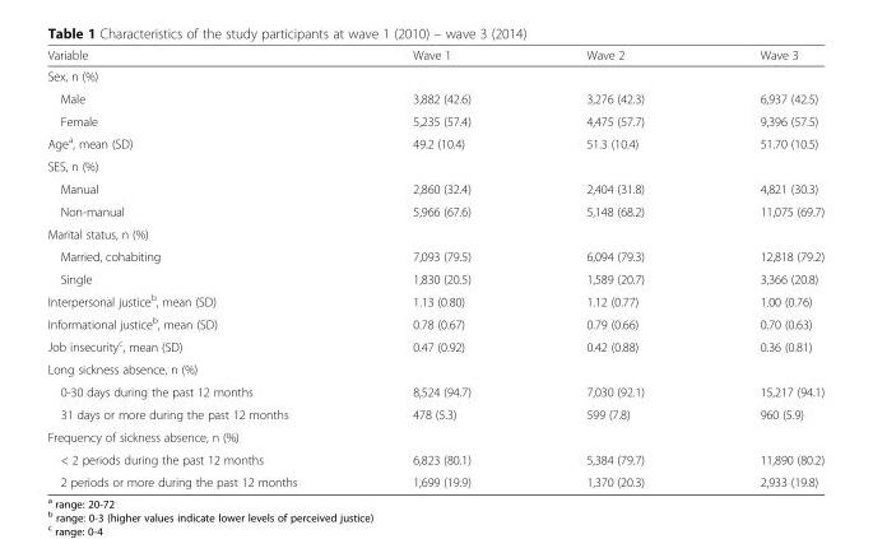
<table><thead><tr><td>Variable</td><td>Wave 1</td><td>Wave 2</td><td>Wave 3</td></tr></thead><tbody><tr><td colspan="4">Sex, n (%)</td></tr><tr><td>Male</td><td>3,882 (42.6)</td><td>3,276 (42.3)</td><td>6,937 (42.5)</td></tr><tr><td>Female</td><td>5,235 (57.4)</td><td>4,475 (57.7)</td><td>9,396 (57.5)</td></tr><tr><td>Age<sup>a</sup>, mean (SD)</td><td>49.2 (10.4)</td><td>51.3 (10.4)</td><td>51.70 (10.5)</td></tr><tr><td colspan="4">SES, n (%)</td></tr><tr><td>Manual</td><td>2,860 (32.4)</td><td>2,404 (31.8)</td><td>4,821 (30.3)</td></tr><tr><td>Non-manual</td><td>5,966 (67.6)</td><td>5,148 (68.2)</td><td>11,075 (69.7)</td></tr><tr><td colspan="4">Marital status, n (%)</td></tr><tr><td>Married, cohabiting</td><td>7,093 (79.5)</td><td>6,094 (79.3)</td><td>12,818 (79.2)</td></tr><tr><td>Single</td><td>1,830 (20.5)</td><td>1,589 (20.7)</td><td>3,366 (20.8)</td></tr><tr><td>Interpersonal justice<sup>b</sup>, mean (SD)</td><td>1.13 (0.80)</td><td>1.12 (0.77)</td><td>1.00 (0.76)</td></tr><tr><td>Informational justice<sup>b</sup>, mean (SD)</td><td>0.78 (0.67)</td><td>0.79 (0.66)</td><td>0.70 (0.63)</td></tr><tr><td>Job insecurity<sup>c</sup>, mean (SD)</td><td>0.47 (0.92)</td><td>0.42 (0.88)</td><td>0.36 (0.81)</td></tr><tr><td colspan="4">Long sickness absence, n (%)</td></tr><tr><td>0-30 days during the past 12 months</td><td>8,524 (94.7)</td><td>7,030 (92.1)</td><td>15,217 (94.1)</td></tr><tr><td>31 days or more during the past 12 months</td><td>478 (5.3)</td><td>599 (7.8)</td><td>960 (5.9)</td></tr><tr><td colspan="4">Frequency of sickness absence, n (%)</td></tr><tr><td>&lt; 2 periods during the past 12 months</td><td>6,823 (80.1)</td><td>5,384 (79.7)</td><td>11,890 (80.2)</td></tr><tr><td>2 periods or more during the past 12 months</td><td>1,699 (19.9)</td><td>1,370 (20.3)</td><td>2,933 (19.8)</td></tr></tbody></table>